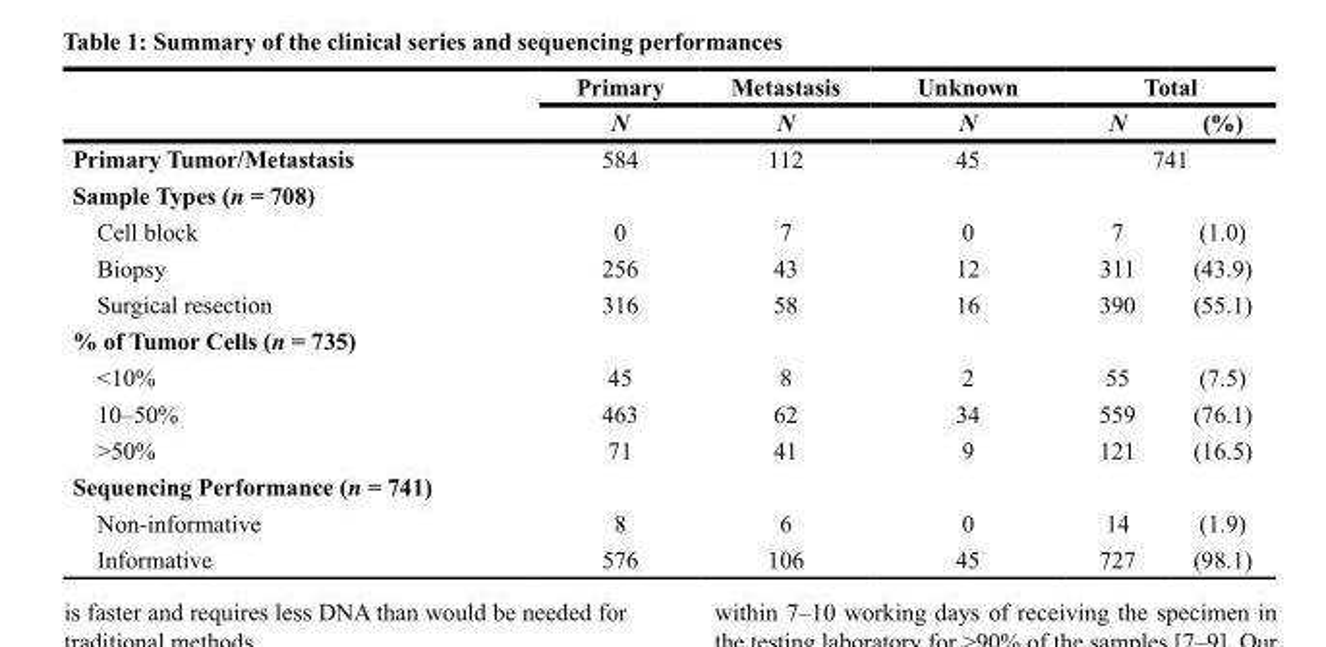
<table><thead><tr><td rowspan="2"></td><td rowspan="2">Primary N</td><td rowspan="2">Metastasis N</td><td rowspan="2">Unknown N</td><td colspan="2">Total</td></tr><tr><td>N</td><td>(%)</td></tr></thead><tbody><tr><td>Primary Tumor/Metastasis</td><td>584</td><td>112</td><td>45</td><td colspan="2">741</td></tr><tr><td colspan="6">Sample Types (n = 708)</td></tr><tr><td>Cell block</td><td>0</td><td>7</td><td>0</td><td>7</td><td>(1.0)</td></tr><tr><td>Biopsy</td><td>256</td><td>43</td><td>12</td><td>311</td><td>(43.9)</td></tr><tr><td>Surgical resection</td><td>316</td><td>58</td><td>16</td><td>390</td><td>(55.1)</td></tr><tr><td colspan="6">% of Tumor Cells (n = 735)</td></tr><tr><td>&lt;10%</td><td>45</td><td>8</td><td>2</td><td>55</td><td>(7.5)</td></tr><tr><td>10–50%</td><td>463</td><td>62</td><td>34</td><td>559</td><td>(76.1)</td></tr><tr><td>&gt;50%</td><td>71</td><td>41</td><td>9</td><td>121</td><td>(16.5)</td></tr><tr><td colspan="6">Sequencing Performance (n = 741)</td></tr><tr><td>Non-informative</td><td>8</td><td>6</td><td>0</td><td>14</td><td>(1.9)</td></tr><tr><td>Informative</td><td>576</td><td>106</td><td>45</td><td>727</td><td>(98.1)</td></tr></tbody></table>